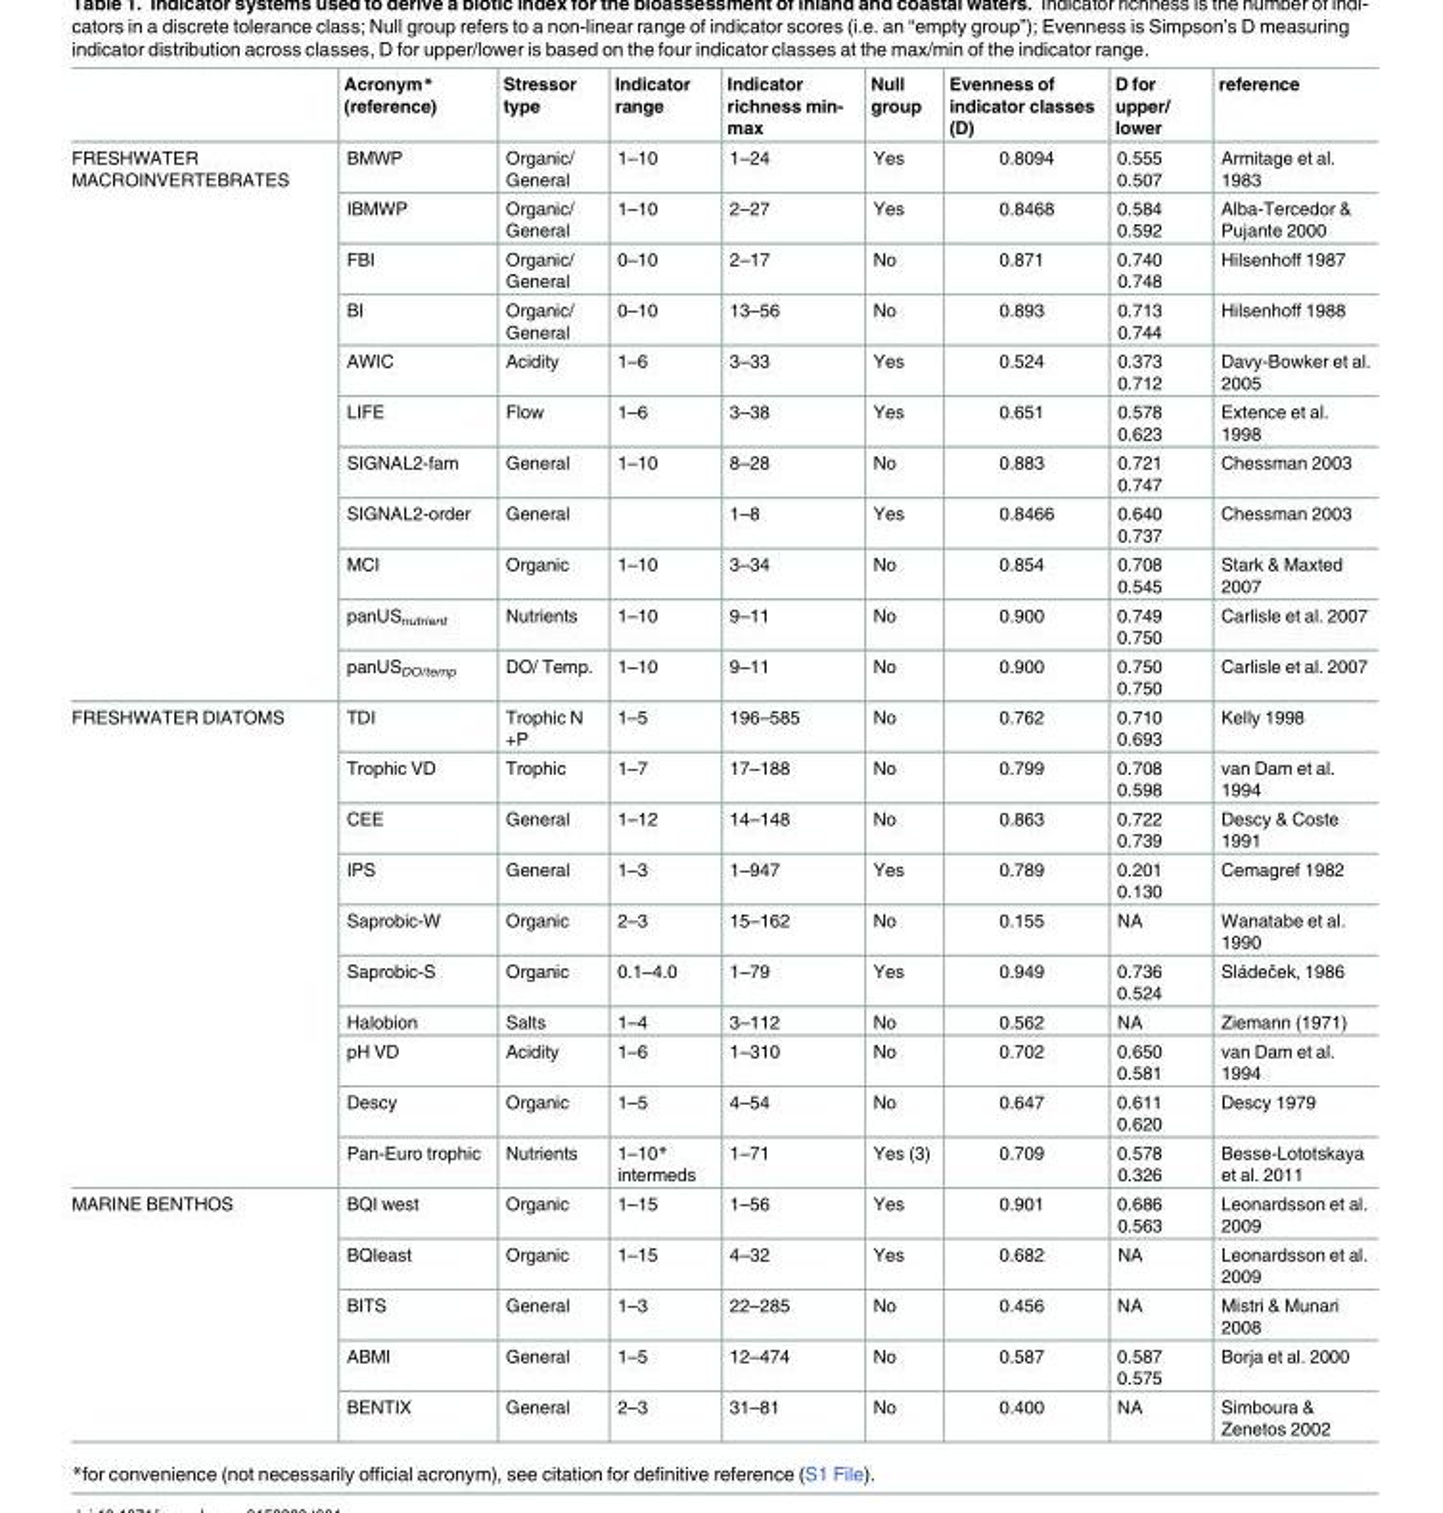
<table><thead><tr><td></td><td>Acronym* (reference)</td><td>Stressor type</td><td>Indicator range</td><td>Indicator richness min- max</td><td>Null group</td><td>Evenness of indicator classes (D)</td><td>D for upper/ lower</td><td>reference</td></tr></thead><tbody><tr><td rowspan="11">FRESHWATER MACROINVERTEBRATES</td><td>BMWP</td><td>Organic/ General</td><td>1–10</td><td>1–24</td><td>Yes</td><td>0.8094</td><td>0.555 0.507</td><td>Armitage et al. 1983</td></tr><tr><td>IBMWP</td><td>Organic/ General</td><td>1–10</td><td>2–27</td><td>Yes</td><td>0.8468</td><td>0.584 0.592</td><td>Alba-Tercedor &amp; Pujante 2000</td></tr><tr><td>FBI</td><td>Organic/ General</td><td>0–10</td><td>2–17</td><td>No</td><td>0.871</td><td>0.740 0.748</td><td>Hilsenhoff 1987</td></tr><tr><td>BI</td><td>Organic/ General</td><td>0–10</td><td>13–56</td><td>No</td><td>0.893</td><td>0.713 0.744</td><td>Hilsenhoff 1988</td></tr><tr><td>AWIC</td><td>Acidity</td><td>1–6</td><td>3–33</td><td>Yes</td><td>0.524</td><td>0.373 0.712</td><td>Davy-Bowker et al. 2005</td></tr><tr><td>LIFE</td><td>Flow</td><td>1–6</td><td>3–38</td><td>Yes</td><td>0.651</td><td>0.578 0.623</td><td>Extence et al. 1998</td></tr><tr><td>SIGNAL2-fam</td><td>General</td><td>1–10</td><td>8–28</td><td>No</td><td>0.883</td><td>0.721 0.747</td><td>Chessman 2003</td></tr><tr><td>SIGNAL2-order</td><td>General</td><td></td><td>1–8</td><td>Yes</td><td>0.8466</td><td>0.640 0.737</td><td>Chessman 2003</td></tr><tr><td>MCI</td><td>Organic</td><td>1–10</td><td>3–34</td><td>No</td><td>0.854</td><td>0.708 0.545</td><td>Stark &amp; Maxted 2007</td></tr><tr><td>panUS<sub>nutrient</sub></td><td>Nutrients</td><td>1–10</td><td>9–11</td><td>No</td><td>0.900</td><td>0.749 0.750</td><td>Carlisle et al. 2007</td></tr><tr><td>panUS<sub>DO/temp</sub></td><td>DO/ Temp.</td><td>1–10</td><td>9–11</td><td>No</td><td>0.900</td><td>0.750 0.750</td><td>Carlisle et al. 2007</td></tr><tr><td rowspan="10">FRESHWATER DIATOMS</td><td>TDI</td><td>Trophic N +P</td><td>1–5</td><td>196–585</td><td>No</td><td>0.762</td><td>0.710 0.693</td><td>Kelly 1998</td></tr><tr><td>Trophic VD</td><td>Trophic</td><td>1–7</td><td>17–188</td><td>No</td><td>0.799</td><td>0.708 0.598</td><td>van Dam et al. 1994</td></tr><tr><td>CEE</td><td>General</td><td>1–12</td><td>14–148</td><td>No</td><td>0.863</td><td>0.722 0.739</td><td>Descy &amp; Coste 1991</td></tr><tr><td>IPS</td><td>General</td><td>1–3</td><td>1–947</td><td>Yes</td><td>0.789</td><td>0.201 0.130</td><td>Cemagref 1982</td></tr><tr><td>Saprobic-W</td><td>Organic</td><td>2–3</td><td>15–162</td><td>No</td><td>0.155</td><td>NA</td><td>Wanatabe et al. 1990</td></tr><tr><td>Saprobic-S</td><td>Organic</td><td>0.1–4.0</td><td>1–79</td><td>Yes</td><td>0.949</td><td>0.736 0.524</td><td>Sládeček, 1986</td></tr><tr><td>Halobion</td><td>Salts</td><td>1–4</td><td>3–112</td><td>No</td><td>0.562</td><td>NA</td><td>Ziemann (1971)</td></tr><tr><td>pH VD</td><td>Acidity</td><td>1–6</td><td>1–310</td><td>No</td><td>0.702</td><td>0.650 0.581</td><td>van Dam et al. 1994</td></tr><tr><td>Descy</td><td>Organic</td><td>1–5</td><td>4–54</td><td>No</td><td>0.647</td><td>0.611 0.620</td><td>Descy 1979</td></tr><tr><td>Pan-Euro trophic</td><td>Nutrients</td><td>1–10* intermeds</td><td>1–71</td><td>Yes (3)</td><td>0.709</td><td>0.578 0.326</td><td>Besse-Lototskaya et al. 2011</td></tr><tr><td rowspan="5">MARINE BENTHOS</td><td>BQI west</td><td>Organic</td><td>1–15</td><td>1–56</td><td>Yes</td><td>0.901</td><td>0.686 0.563</td><td>Leonardsson et al. 2009</td></tr><tr><td>BQIeast</td><td>Organic</td><td>1–15</td><td>4–32</td><td>Yes</td><td>0.682</td><td>NA</td><td>Leonardsson et al. 2009</td></tr><tr><td>BITS</td><td>General</td><td>1–3</td><td>22–285</td><td>No</td><td>0.456</td><td>NA</td><td>Mistri &amp; Munari 2008</td></tr><tr><td>ABMI</td><td>General</td><td>1–5</td><td>12–474</td><td>No</td><td>0.587</td><td>0.587 0.575</td><td>Borja et al. 2000</td></tr><tr><td>BENTIX</td><td>General</td><td>2–3</td><td>31–81</td><td>No</td><td>0.400</td><td>NA</td><td>Simboura &amp; Zenetos 2002</td></tr></tbody></table>